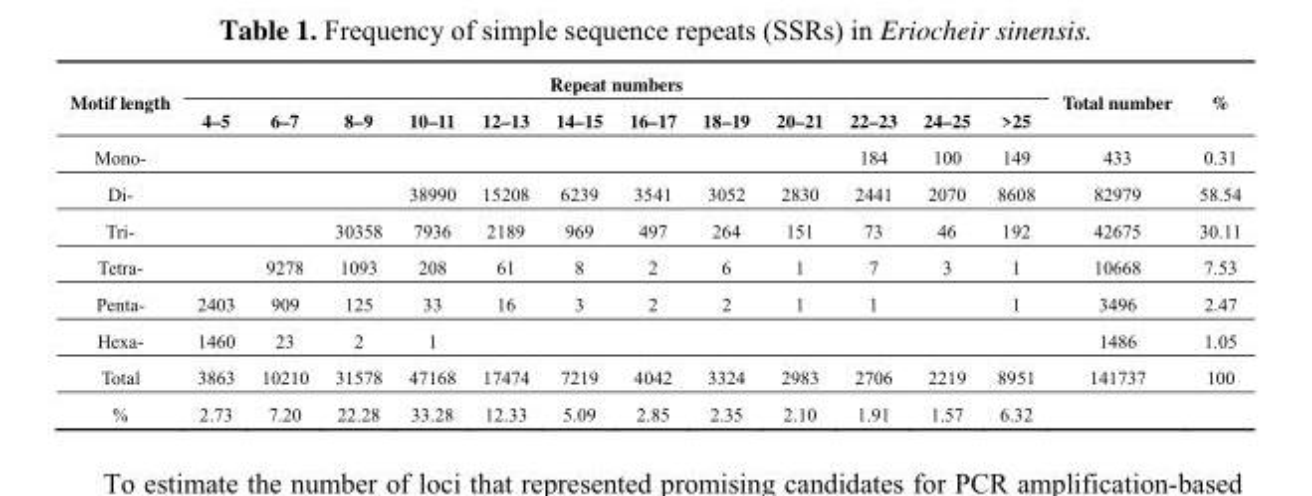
<table><thead><tr><td rowspan="2">Motif length</td><td colspan="12">Repeat numbers</td><td rowspan="2">Total number</td><td rowspan="2">%</td></tr><tr><td>4–5</td><td>6–7</td><td>8–9</td><td>10–11</td><td>12–13</td><td>14–15</td><td>16–17</td><td>18–19</td><td>20–21</td><td>22–23</td><td>24–25</td><td>&gt;25</td></tr></thead><tbody><tr><td>Mono-</td><td></td><td></td><td></td><td></td><td></td><td></td><td></td><td></td><td></td><td>184</td><td>100</td><td>149</td><td>433</td><td>0.31</td></tr><tr><td>Di-</td><td></td><td></td><td></td><td>38990</td><td>15208</td><td>6239</td><td>3541</td><td>3052</td><td>2830</td><td>2441</td><td>2070</td><td>8608</td><td>82979</td><td>58.54</td></tr><tr><td>Tri-</td><td></td><td></td><td>30358</td><td>7936</td><td>2189</td><td>969</td><td>497</td><td>264</td><td>151</td><td>73</td><td>46</td><td>192</td><td>42675</td><td>30.11</td></tr><tr><td>Tetra-</td><td></td><td>9278</td><td>1093</td><td>208</td><td>61</td><td>8</td><td>2</td><td>6</td><td>1</td><td>7</td><td>3</td><td>1</td><td>10668</td><td>7.53</td></tr><tr><td>Penta-</td><td>2403</td><td>909</td><td>125</td><td>33</td><td>16</td><td>3</td><td>2</td><td>2</td><td>1</td><td>1</td><td></td><td>1</td><td>3496</td><td>2.47</td></tr><tr><td>Hexa-</td><td>1460</td><td>23</td><td>2</td><td>1</td><td></td><td></td><td></td><td></td><td></td><td></td><td></td><td></td><td>1486</td><td>1.05</td></tr><tr><td>Total</td><td>3863</td><td>10210</td><td>31578</td><td>47168</td><td>17474</td><td>7219</td><td>4042</td><td>3324</td><td>2983</td><td>2706</td><td>2219</td><td>8951</td><td>141737</td><td>100</td></tr><tr><td>%</td><td>2.73</td><td>7.20</td><td>22.28</td><td>33.28</td><td>12.33</td><td>5.09</td><td>2.85</td><td>2.35</td><td>2.10</td><td>1.91</td><td>1.57</td><td>6.32</td><td></td><td></td></tr></tbody></table>